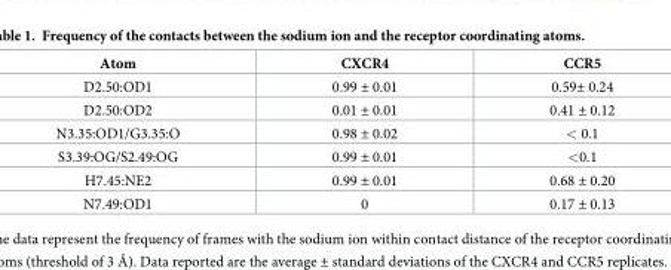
<table><thead><tr><td>Atom</td><td>CXCR4</td><td>CCR5</td></tr></thead><tbody><tr><td>D2.50:OD1</td><td>0.99 ± 0.01</td><td>0.59± 0.24</td></tr><tr><td>D2.50:OD2</td><td>0.01 ± 0.01</td><td>0.41 ± 0.12</td></tr><tr><td>N3.35:OD1/G3.35:O</td><td>0.98 ± 0.02</td><td>&lt; 0.1</td></tr><tr><td>S3.39:OG/S2.49:OG</td><td>0.99 ± 0.01</td><td>&lt;0.1</td></tr><tr><td>H7.45:NE2</td><td>0.99 ± 0.01</td><td>0.68 ± 0.20</td></tr><tr><td>N7.49:OD1</td><td>0</td><td>0.17 ± 0.13</td></tr></tbody></table>